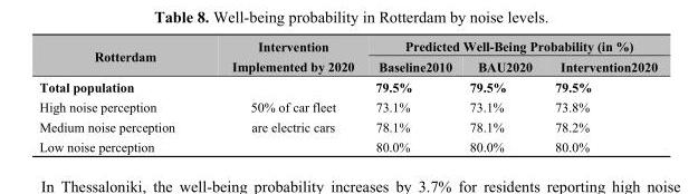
<table><thead><tr><td rowspan="2">Rotterdam</td><td rowspan="2">Intervention Implemented by 2020</td><td colspan="3">Predicted Well-Being Probability (in %)</td></tr><tr><td>Baseline2010</td><td>BAU2020</td><td>Intervention2020</td></tr></thead><tbody><tr><td>Total population</td><td rowspan="4">50% of car fleet are electric cars</td><td>79.5%</td><td>79.5%</td><td>79.5%</td></tr><tr><td>High noise perception</td><td>73.1%</td><td>73.1%</td><td>73.8%</td></tr><tr><td>Medium noise perception</td><td>78.1%</td><td>78.1%</td><td>78.2%</td></tr><tr><td>Low noise perception</td><td>80.0%</td><td>80.0%</td><td>80.0%</td></tr></tbody></table>